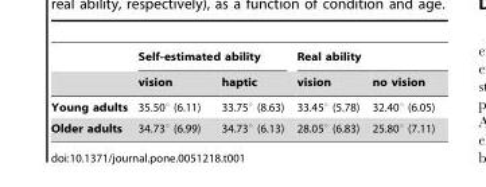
<table><thead><tr><td rowspan="2"></td><td colspan="2">Self-estimated ability</td><td colspan="2">Real ability</td></tr><tr><td>vision</td><td>haptic</td><td>vision</td><td>no vision</td></tr></thead><tbody><tr><td>Young adults</td><td>35.50° (6.11)</td><td>33.75° (8.63)</td><td>33.45° (5.78)</td><td>32.40° (6.05)</td></tr><tr><td>Older adults</td><td>34.73° (6.99)</td><td>34.73° (6.13)</td><td>28.05° (6.83)</td><td>25.80° (7.11)</td></tr></tbody></table>